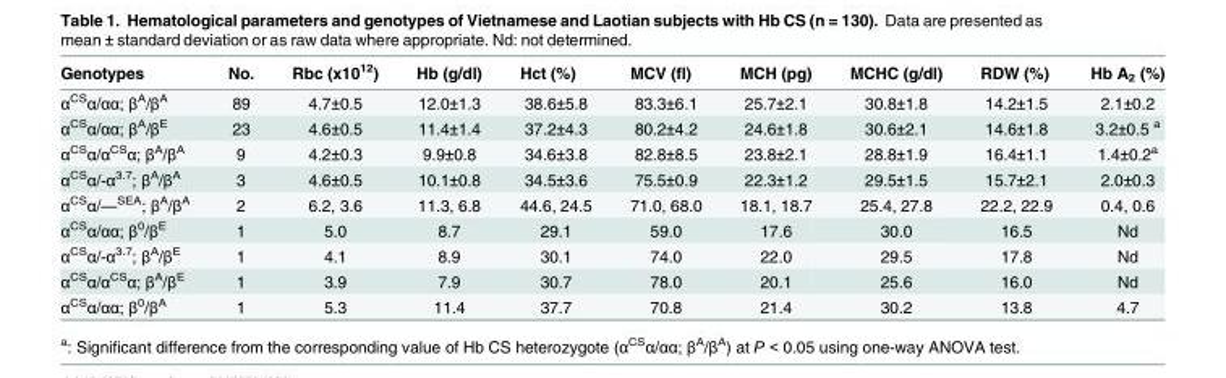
<table><thead><tr><td>Genotypes</td><td>No.</td><td>Rbc (x10<sup>12</sup>)</td><td>Hb (g/dl)</td><td>Hct (%)</td><td>MCV (fl)</td><td>MCH (pg)</td><td>MCHC (g/dl)</td><td>RDW (%)</td><td>Hb A<sub>2</sub> (%)</td></tr></thead><tbody><tr><td>α<sup>CS</sup>α/αα; β<sup>A</sup>/β<sup>A</sup></td><td>89</td><td>4.7±0.5</td><td>12.0±1.3</td><td>38.6±5.8</td><td>83.3±6.1</td><td>25.7±2.1</td><td>30.8±1.8</td><td>14.2±1.5</td><td>2.1±0.2</td></tr><tr><td>α<sup>CS</sup>α/αα; β<sup>A</sup>/β<sup>E</sup></td><td>23</td><td>4.6±0.5</td><td>11.4±1.4</td><td>37.2±4.3</td><td>80.2±4.2</td><td>24.6±1.8</td><td>30.6±2.1</td><td>14.6±1.8</td><td>3.2±0.5 <sup>a</sup></td></tr><tr><td>α<sup>CS</sup>α/α<sup>CS</sup>α; β<sup>A</sup>/β<sup>A</sup></td><td>9</td><td>4.2±0.3</td><td>9.9±0.8</td><td>34.6±3.8</td><td>82.8±8.5</td><td>23.8±2.1</td><td>28.8±1.9</td><td>16.4±1.1</td><td>1.4±0.2<sup>a</sup></td></tr><tr><td>α<sup>CS</sup>α/-α<sup>3.7</sup>; β<sup>A</sup>/β<sup>A</sup></td><td>3</td><td>4.6±0.5</td><td>10.1±0.8</td><td>34.5±3.6</td><td>75.5±0.9</td><td>22.3±1.2</td><td>29.5±1.5</td><td>15.7±2.1</td><td>2.0±0.3</td></tr><tr><td>α<sup>CS</sup>α/—<sup>SEA</sup>; β<sup>A</sup>/β<sup>A</sup></td><td>2</td><td>6.2, 3.6</td><td>11.3, 6.8</td><td>44.6, 24.5</td><td>71.0, 68.0</td><td>18.1, 18.7</td><td>25.4, 27.8</td><td>22.2, 22.9</td><td>0.4, 0.6</td></tr><tr><td>α<sup>CS</sup>α/αα; β<sup>0</sup>/β<sup>E</sup></td><td>1</td><td>5.0</td><td>8.7</td><td>29.1</td><td>59.0</td><td>17.6</td><td>30.0</td><td>16.5</td><td>Nd</td></tr><tr><td>α<sup>CS</sup>α/-α<sup>3.7</sup>; β<sup>A</sup>/β<sup>E</sup></td><td>1</td><td>4.1</td><td>8.9</td><td>30.1</td><td>74.0</td><td>22.0</td><td>29.5</td><td>17.8</td><td>Nd</td></tr><tr><td>α<sup>CS</sup>α/α<sup>CS</sup>α; β<sup>A</sup>/β<sup>E</sup></td><td>1</td><td>3.9</td><td>7.9</td><td>30.7</td><td>78.0</td><td>20.1</td><td>25.6</td><td>16.0</td><td>Nd</td></tr><tr><td>α<sup>CS</sup>α/αα; β<sup>0</sup>/β<sup>A</sup></td><td>1</td><td>5.3</td><td>11.4</td><td>37.7</td><td>70.8</td><td>21.4</td><td>30.2</td><td>13.8</td><td>4.7</td></tr></tbody></table>